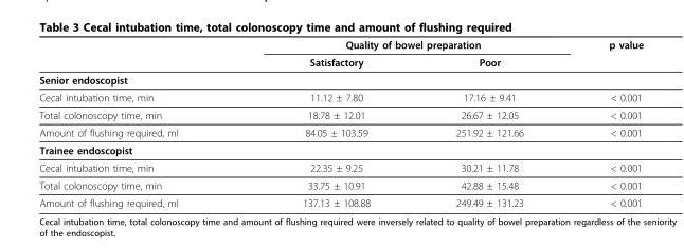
<table><thead><tr><td rowspan="2"></td><td colspan="2">Quality of bowel preparation</td><td rowspan="2">p value</td></tr><tr><td>Satisfactory</td><td>Poor</td></tr></thead><tbody><tr><td colspan="4">Senior endoscopist</td></tr><tr><td>Cecal intubation time, min</td><td>11.12 ± 7.80</td><td>17.16 ± 9.41</td><td>&lt; 0.001</td></tr><tr><td>Total colonoscopy time, min</td><td>18.78 ± 12.01</td><td>26.67 ± 12.05</td><td>&lt; 0.001</td></tr><tr><td>Amount of flushing required, ml</td><td>84.05 ± 103.59</td><td>251.92 ± 121.66</td><td>&lt; 0.001</td></tr><tr><td colspan="4">Trainee endoscopist</td></tr><tr><td>Cecal intubation time, min</td><td>22.35 ± 9.25</td><td>30.21 ± 11.78</td><td>&lt; 0.001</td></tr><tr><td>Total colonoscopy time, min</td><td>33.75 ± 10.91</td><td>42.88 ± 15.48</td><td>&lt; 0.001</td></tr><tr><td>Amount of flushing required, ml</td><td>137.13 ± 108.88</td><td>249.49 ± 131.23</td><td>&lt; 0.001</td></tr></tbody></table>